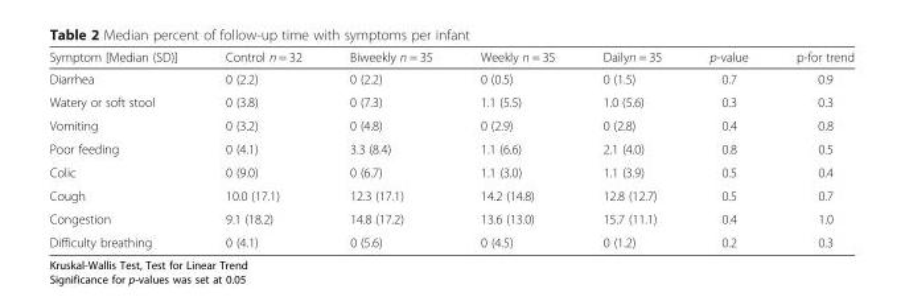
<table><thead><tr><td>Symptom [Median (SD)]</td><td>Control n = 32</td><td>Biweekly n = 35</td><td>Weekly n = 35</td><td>Dailyn = 35</td><td>p-value</td><td>p-for trend</td></tr></thead><tbody><tr><td>Diarrhea</td><td>0 (2.2)</td><td>0 (2.2)</td><td>0 (0.5)</td><td>0 (1.5)</td><td>0.7</td><td>0.9</td></tr><tr><td>Watery or soft stool</td><td>0 (3.8)</td><td>0 (7.3)</td><td>1.1 (5.5)</td><td>1.0 (5.6)</td><td>0.3</td><td>0.3</td></tr><tr><td>Vomiting</td><td>0 (3.2)</td><td>0 (4.8)</td><td>0 (2.9)</td><td>0 (2.8)</td><td>0.4</td><td>0.8</td></tr><tr><td>Poor feeding</td><td>0 (4.1)</td><td>3.3 (8.4)</td><td>1.1 (6.6)</td><td>2.1 (4.0)</td><td>0.8</td><td>0.5</td></tr><tr><td>Colic</td><td>0 (9.0)</td><td>0 (6.7)</td><td>1.1 (3.0)</td><td>1.1 (3.9)</td><td>0.5</td><td>0.4</td></tr><tr><td>Cough</td><td>10.0 (17.1)</td><td>12.3 (17.1)</td><td>14.2 (14.8)</td><td>12.8 (12.7)</td><td>0.5</td><td>0.7</td></tr><tr><td>Congestion</td><td>9.1 (18.2)</td><td>14.8 (17.2)</td><td>13.6 (13.0)</td><td>15.7 (11.1)</td><td>0.4</td><td>1.0</td></tr><tr><td>Difficulty breathing</td><td>0 (4.1)</td><td>0 (5.6)</td><td>0 (4.5)</td><td>0 (1.2)</td><td>0.2</td><td>0.3</td></tr></tbody></table>